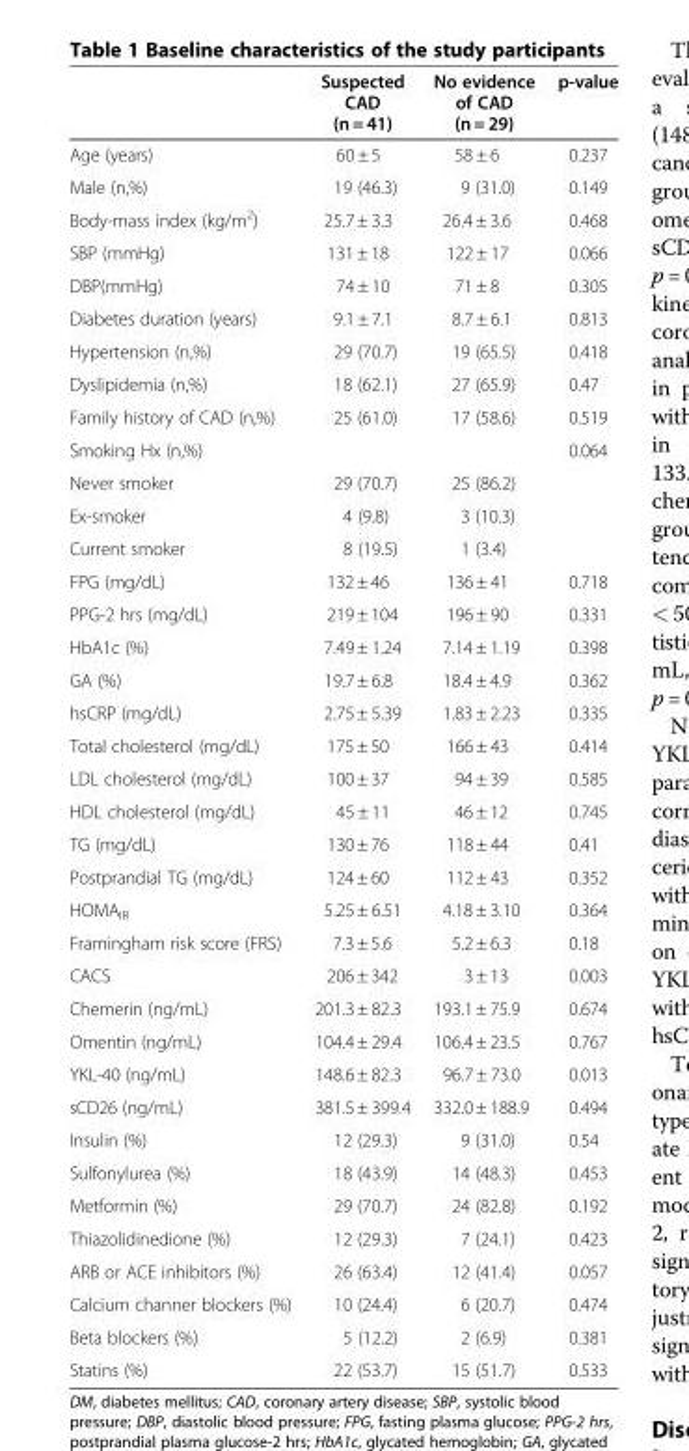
<table><thead><tr><td></td><td>Suspected CAD (n = 41)</td><td>No evidence of CAD (n = 29)</td><td>p-value</td></tr></thead><tbody><tr><td>Age (years)</td><td>60 ± 5</td><td>58 ± 6</td><td>0.237</td></tr><tr><td>Male (n,%)</td><td>19 (46.3)</td><td>9 (31.0)</td><td>0.149</td></tr><tr><td>Body-mass index (kg/m<sup>2</sup>)</td><td>25.7 ± 3.3</td><td>26.4 ± 3.6</td><td>0.468</td></tr><tr><td>SBP (mmHg)</td><td>131 ± 18</td><td>122 ± 17</td><td>0.066</td></tr><tr><td>DBP(mmHg)</td><td>74 ± 10</td><td>71 ± 8</td><td>0.305</td></tr><tr><td>Diabetes duration (years)</td><td>9.1 ± 7.1</td><td>8.7 ± 6.1</td><td>0.813</td></tr><tr><td>Hypertension (n,%)</td><td>29 (70.7)</td><td>19 (65.5)</td><td>0.418</td></tr><tr><td>Dyslipidemia (n,%)</td><td>18 (62.1)</td><td>27 (65.9)</td><td>0.47</td></tr><tr><td>Family history of CAD (n,%)</td><td>25 (61.0)</td><td>17 (58.6)</td><td>0.519</td></tr><tr><td colspan="4">Smoking Hx (n,%) 0.064</td></tr><tr><td>Never smoker</td><td>29 (70.7)</td><td>25 (86.2)</td><td></td></tr><tr><td>Ex-smoker</td><td>4 (9.8)</td><td>3 (10.3)</td><td></td></tr><tr><td>Current smoker</td><td>8 (19.5)</td><td>1 (3.4)</td><td></td></tr><tr><td>FPG (mg/dL)</td><td>132 ± 46</td><td>136 ± 41</td><td>0.718</td></tr><tr><td>PPG-2 hrs (mg/dL)</td><td>219 ± 104</td><td>196 ± 90</td><td>0.331</td></tr><tr><td>HbA1c (%)</td><td>7.49 ± 1.24</td><td>7.14 ± 1.19</td><td>0.398</td></tr><tr><td>GA (%)</td><td>19.7 ± 6.8</td><td>18.4 ± 4.9</td><td>0.362</td></tr><tr><td>hsCRP (mg/dL)</td><td>2.75 ± 5.39</td><td>1.83 ± 2.23</td><td>0.335</td></tr><tr><td>Total cholesterol (mg/dL)</td><td>175 ± 50</td><td>166 ± 43</td><td>0.414</td></tr><tr><td>LDL cholesterol (mg/dL)</td><td>100 ± 37</td><td>94 ± 39</td><td>0.585</td></tr><tr><td>HDL cholesterol (mg/dL)</td><td>45 ± 11</td><td>46 ± 12</td><td>0.745</td></tr><tr><td>TG (mg/dL)</td><td>130 ± 76</td><td>118 ± 44</td><td>0.41</td></tr><tr><td>Postprandial TG (mg/dL)</td><td>124 ± 60</td><td>112 ± 43</td><td>0.352</td></tr><tr><td>HOMA<sub>IR</sub></td><td>5.25 ± 6.51</td><td>4.18 ± 3.10</td><td>0.364</td></tr><tr><td>Framingham risk score (FRS)</td><td>7.3 ± 5.6</td><td>5.2 ± 6.3</td><td>0.18</td></tr><tr><td>CACS</td><td>206 ± 342</td><td>3 ± 13</td><td>0.003</td></tr><tr><td>Chemerin (ng/mL)</td><td>201.3 ± 82.3</td><td>193.1 ± 75.9</td><td>0.674</td></tr><tr><td>Omentin (ng/mL)</td><td>104.4 ± 29.4</td><td>106.4 ± 23.5</td><td>0.767</td></tr><tr><td>YKL-40 (ng/mL)</td><td>148.6 ± 82.3</td><td>96.7 ± 73.0</td><td>0.013</td></tr><tr><td>sCD26 (ng/mL)</td><td>381.5 ± 399.4</td><td>332.0 ± 188.9</td><td>0.494</td></tr><tr><td>Insulin (%)</td><td>12 (29.3)</td><td>9 (31.0)</td><td>0.54</td></tr><tr><td>Sulfonylurea (%)</td><td>18 (43.9)</td><td>14 (48.3)</td><td>0.453</td></tr><tr><td>Metformin (%)</td><td>29 (70.7)</td><td>24 (82.8)</td><td>0.192</td></tr><tr><td>Thiazolidinedione (%)</td><td>12 (29.3)</td><td>7 (24.1)</td><td>0.423</td></tr><tr><td>ARB or ACE inhibitors (%)</td><td>26 (63.4)</td><td>12 (41.4)</td><td>0.057</td></tr><tr><td>Calcium channer blockers (%)</td><td>10 (24.4)</td><td>6 (20.7)</td><td>0.474</td></tr><tr><td>Beta blockers (%)</td><td>5 (12.2)</td><td>2 (6.9)</td><td>0.381</td></tr><tr><td>Statins (%)</td><td>22 (53.7)</td><td>15 (51.7)</td><td>0.533</td></tr></tbody></table>